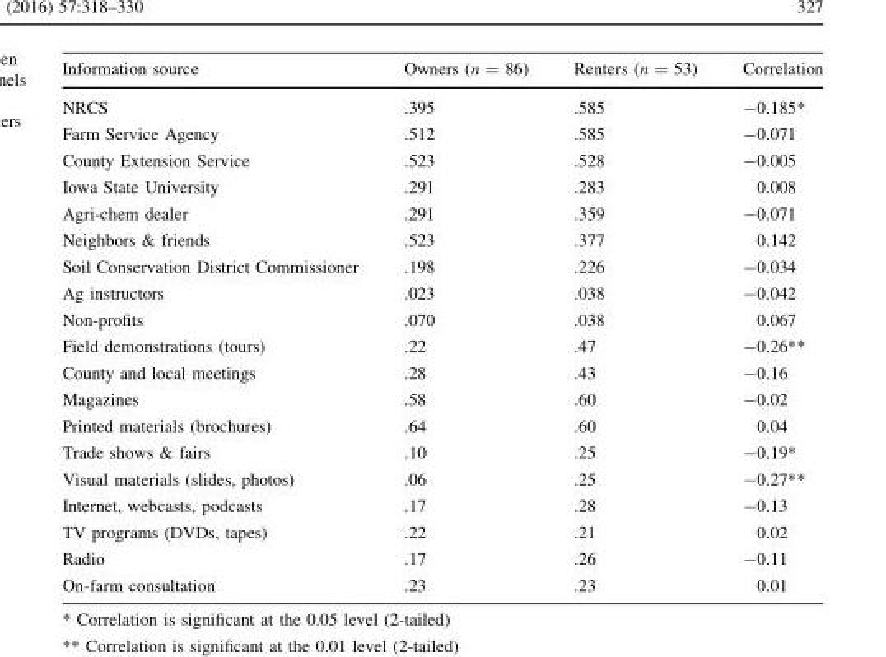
<table><thead><tr><td>Information source</td><td>Owners (n = 86)</td><td>Renters (n = 53)</td><td>Correlation</td></tr></thead><tbody><tr><td>NRCS</td><td>.395</td><td>.585</td><td>-0.185*</td></tr><tr><td>Farm Service Agency</td><td>.512</td><td>.585</td><td>-0.071</td></tr><tr><td>County Extension Service</td><td>.523</td><td>.528</td><td>-0.005</td></tr><tr><td>Iowa State University</td><td>.291</td><td>.283</td><td>0.008</td></tr><tr><td>Agri-chem dealer</td><td>.291</td><td>.359</td><td>-0.071</td></tr><tr><td>Neighbors &amp; friends</td><td>.523</td><td>.377</td><td>0.142</td></tr><tr><td>Soil Conservation District Commissioner</td><td>.198</td><td>.226</td><td>-0.034</td></tr><tr><td>Ag instructors</td><td>.023</td><td>.038</td><td>-0.042</td></tr><tr><td>Non-profits</td><td>.070</td><td>.038</td><td>0.067</td></tr><tr><td>Field demonstrations (tours)</td><td>.22</td><td>.47</td><td>-0.26**</td></tr><tr><td>County and local meetings</td><td>.28</td><td>.43</td><td>-0.16</td></tr><tr><td>Magazines</td><td>.58</td><td>.60</td><td>-0.02</td></tr><tr><td>Printed materials (brochures)</td><td>.64</td><td>.60</td><td>0.04</td></tr><tr><td>Trade shows &amp; fairs</td><td>.10</td><td>.25</td><td>-0.19*</td></tr><tr><td>Visual materials (slides, photos)</td><td>.06</td><td>.25</td><td>-0.27**</td></tr><tr><td>Internet, webcasts, podcasts</td><td>.17</td><td>.28</td><td>-0.13</td></tr><tr><td>TV programs (DVDs, tapes)</td><td>.22</td><td>.21</td><td>0.02</td></tr><tr><td>Radio</td><td>.17</td><td>.26</td><td>-0.11</td></tr><tr><td>On-farm consultation</td><td>.23</td><td>.23</td><td>0.01</td></tr></tbody></table>